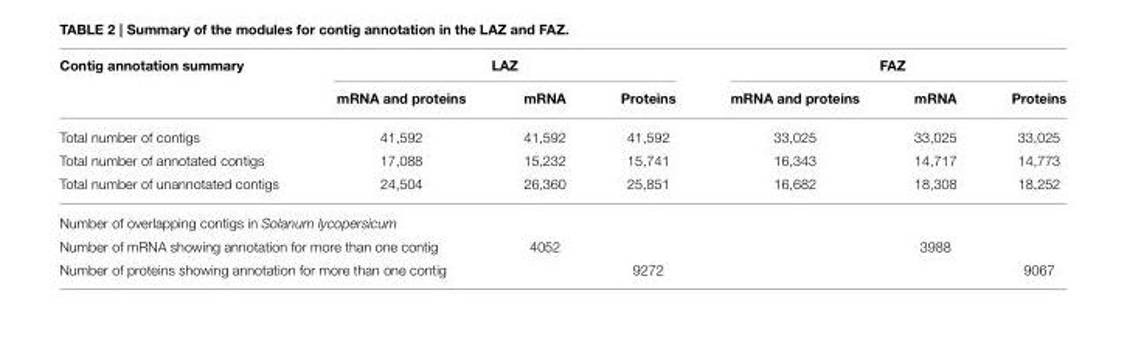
<table><thead><tr><td rowspan="2">Contig annotation summary</td><td colspan="3">LAZ</td><td colspan="3">FAZ</td></tr><tr><td>mRNA and proteins</td><td>mRNA</td><td>Proteins</td><td>mRNA and proteins</td><td>mRNA</td><td>Proteins</td></tr></thead><tbody><tr><td>Total number of contigs</td><td>41,592</td><td>41,592</td><td>41,592</td><td>33,025</td><td>33,025</td><td>33,025</td></tr><tr><td>Total number of annotated contigs</td><td>17,088</td><td>15,232</td><td>15,741</td><td>16,343</td><td>14,717</td><td>14,773</td></tr><tr><td>Total number of unannotated contigs</td><td>24,504</td><td>26,360</td><td>25,851</td><td>16,682</td><td>18,308</td><td>18,252</td></tr><tr><td colspan="7">Number of overlapping contigs in Solanum lycopersicum</td></tr><tr><td colspan="2">Number of mRNA showing annotation for more than one contig</td><td>4052</td><td></td><td></td><td>3988</td><td></td></tr><tr><td colspan="3">Number of proteins showing annotation for more than one contig</td><td>9272</td><td></td><td></td><td>9067</td></tr></tbody></table>